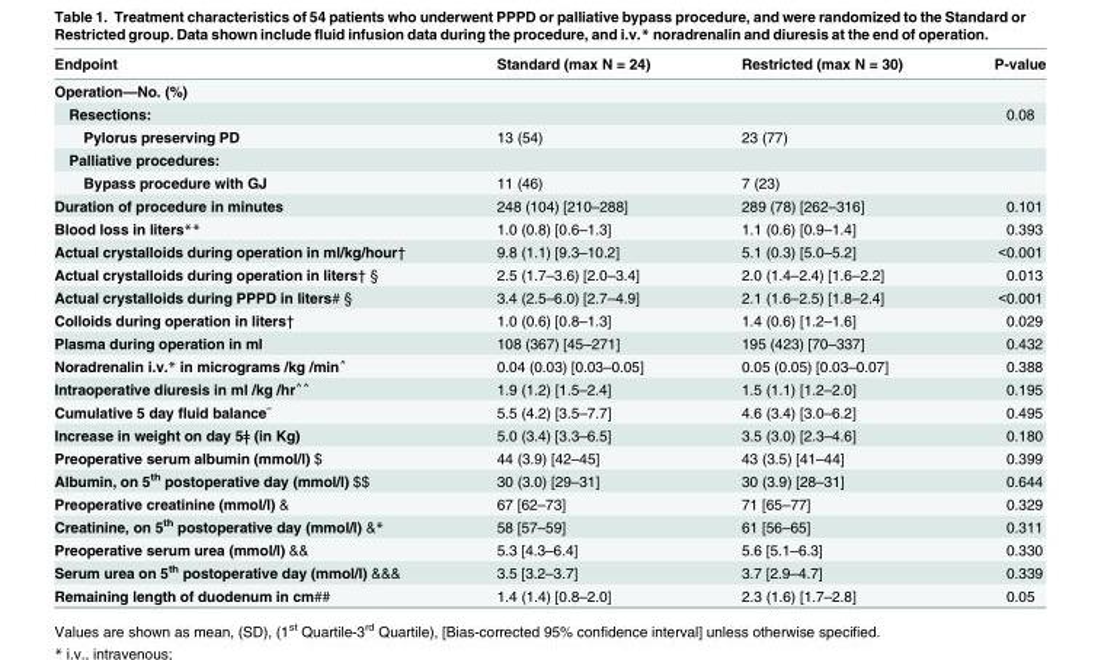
<table><thead><tr><td>Endpoint</td><td>Standard (max N = 24)</td><td>Restricted (max N = 30)</td><td>P-value</td></tr></thead><tbody><tr><td colspan="4">Operation—No. (%)</td></tr><tr><td>Resections:</td><td></td><td></td><td>0.08</td></tr><tr><td>Pylorus preserving PD</td><td>13 (54)</td><td>23 (77)</td><td></td></tr><tr><td colspan="4">Palliative procedures:</td></tr><tr><td>Bypass procedure with GJ</td><td>11 (46)</td><td>7 (23)</td><td></td></tr><tr><td>Duration of procedure in minutes</td><td>248 (104) [210–288]</td><td>289 (78) [262–316]</td><td>0.101</td></tr><tr><td>Blood loss in liters**</td><td>1.0 (0.8) [0.6–1.3]</td><td>1.1 (0.6) [0.9–1.4]</td><td>0.393</td></tr><tr><td>Actual crystalloids during operation in ml/kg/hour†</td><td>9.8 (1.1) [9.3–10.2]</td><td>5.1 (0.3) [5.0–5.2]</td><td>&lt;0.001</td></tr><tr><td>Actual crystalloids during operation in liters† §</td><td>2.5 (1.7–3.6) [2.0–3.4]</td><td>2.0 (1.4–2.4) [1.6–2.2]</td><td>0.013</td></tr><tr><td>Actual crystalloids during PPPD in liters# §</td><td>3.4 (2.5–6.0) [2.7–4.9]</td><td>2.1 (1.6–2.5) [1.8–2.4]</td><td>&lt;0.001</td></tr><tr><td>Colloids during operation in liters†</td><td>1.0 (0.6) [0.8–1.3]</td><td>1.4 (0.6) [1.2–1.6]</td><td>0.029</td></tr><tr><td>Plasma during operation in ml</td><td>108 (367) [45–271]</td><td>195 (423) [70–337]</td><td>0.432</td></tr><tr><td>Noradrenalin i.v.* in micrograms /kg /min˄</td><td>0.04 (0.03) [0.03–0.05]</td><td>0.05 (0.05) [0.03–0.07]</td><td>0.388</td></tr><tr><td>Intraoperative diuresis in ml /kg /hr˄˄</td><td>1.9 (1.2) [1.5–2.4]</td><td>1.5 (1.1) [1.2–2.0]</td><td>0.195</td></tr><tr><td>Cumulative 5 day fluid balance˜</td><td>5.5 (4.2) [3.5–7.7]</td><td>4.6 (3.4) [3.0–6.2]</td><td>0.495</td></tr><tr><td>Increase in weight on day 5ǂ (in Kg)</td><td>5.0 (3.4) [3.3–6.5]</td><td>3.5 (3.0) [2.3–4.6]</td><td>0.180</td></tr><tr><td>Preoperative serum albumin (mmol/l) $</td><td>44 (3.9) [42–45]</td><td>43 (3.5) [41–44]</td><td>0.399</td></tr><tr><td>Albumin, on 5<sup>th</sup> postoperative day (mmol/l) $$</td><td>30 (3.0) [29–31]</td><td>30 (3.9) [28–31]</td><td>0.644</td></tr><tr><td>Preoperative creatinine (mmol/l) &amp;</td><td>67 [62–73]</td><td>71 [65–77]</td><td>0.329</td></tr><tr><td>Creatinine, on 5<sup>th</sup> postoperative day (mmol/l) &amp;*</td><td>58 [57–59]</td><td>61 [56–65]</td><td>0.311</td></tr><tr><td>Preoperative serum urea (mmol/l) &amp;&amp;</td><td>5.3 [4.3–6.4]</td><td>5.6 [5.1–6.3]</td><td>0.330</td></tr><tr><td>Serum urea on 5<sup>th</sup> postoperative day (mmol/l) &amp;&amp;&amp;</td><td>3.5 [3.2–3.7]</td><td>3.7 [2.9–4.7]</td><td>0.339</td></tr><tr><td>Remaining length of duodenum in cm##</td><td>1.4 (1.4) [0.8–2.0]</td><td>2.3 (1.6) [1.7–2.8]</td><td>0.05</td></tr></tbody></table>